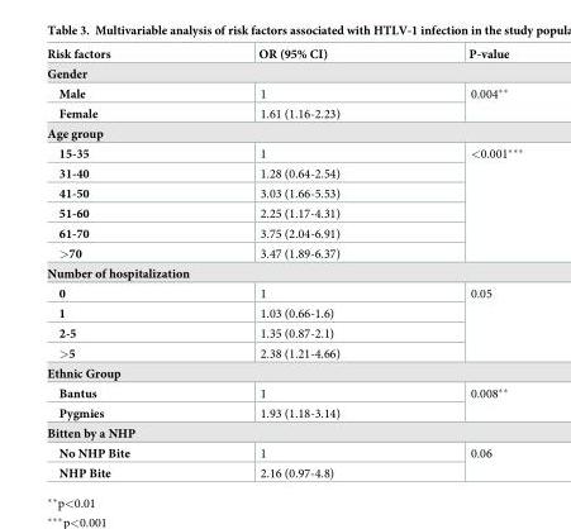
<table><thead><tr><td>Risk factors</td><td>OR (95% CI)</td><td>P-value</td></tr></thead><tbody><tr><td colspan="3">Gender</td></tr><tr><td>Male</td><td>1</td><td rowspan="2">0.004**</td></tr><tr><td>Female</td><td>1.61 (1.16-2.23)</td></tr><tr><td colspan="3">Age group</td></tr><tr><td>15-35</td><td>1</td><td rowspan="6">&lt;0.001***</td></tr><tr><td>31-40</td><td>1.28 (0.64-2.54)</td></tr><tr><td>41-50</td><td>3.03 (1.66-5.53)</td></tr><tr><td>51-60</td><td>2.25 (1.17-4.31)</td></tr><tr><td>61-70</td><td>3.75 (2.04-6.91)</td></tr><tr><td>&gt;70</td><td>3.47 (1.89-6.37)</td></tr><tr><td colspan="3">Number of hospitalization</td></tr><tr><td>0</td><td>1</td><td rowspan="4">0.05</td></tr><tr><td>1</td><td>1.03 (0.66-1.6)</td></tr><tr><td>2-5</td><td>1.35 (0.87-2.1)</td></tr><tr><td>&gt;5</td><td>2.38 (1.21-4.66)</td></tr><tr><td colspan="3">Ethnic Group</td></tr><tr><td>Bantus</td><td>1</td><td rowspan="2">0.008**</td></tr><tr><td>Pygmies</td><td>1.93 (1.18-3.14)</td></tr><tr><td colspan="3">Bitten by a NHP</td></tr><tr><td>No NHP Bite</td><td>1</td><td rowspan="2">0.06</td></tr><tr><td>NHP Bite</td><td>2.16 (0.97-4.8)</td></tr></tbody></table>